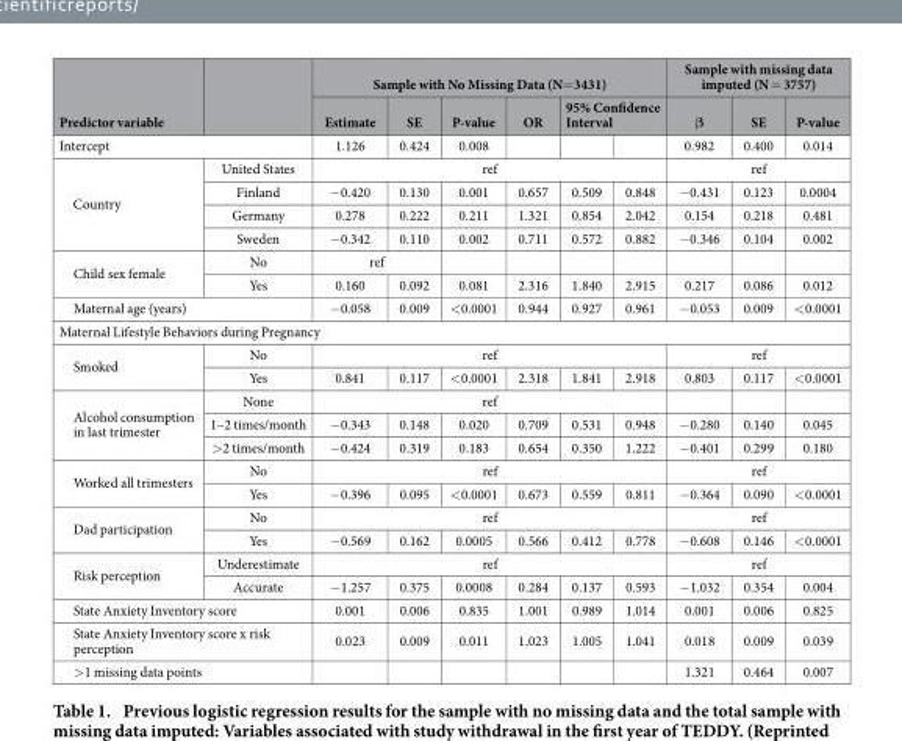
<table><thead><tr><td rowspan="2">Predictor variable</td><td rowspan="2"></td><td colspan="6">Sample with No Missing Data (N= 3431)</td><td colspan="3">Sample with missing data imputed (N = 3757)</td></tr><tr><td rowspan="2">Estimate 1.126</td><td rowspan="2">SE 0.424</td><td rowspan="2">P-value 0.008</td><td rowspan="2">OR</td><td colspan="2">95% Confidence Interval</td><td rowspan="2">β 0.982</td><td rowspan="2">SE 0.400</td><td rowspan="2">P-value 0.014</td></tr><tr><td colspan="2">Intercept</td><td></td><td></td></tr></thead><tbody><tr><td rowspan="4">Country</td><td>United States</td><td colspan="6">ref</td><td colspan="3">ref</td></tr><tr><td>Finland</td><td>− 0.420</td><td>0.130</td><td>0.001</td><td>0.657</td><td>0.509</td><td>0.848</td><td>− 0.431</td><td>0.123</td><td>0.0004</td></tr><tr><td>Germany</td><td>0.278</td><td>0.222</td><td>0.211</td><td>1.321</td><td>0.854</td><td>2.042</td><td>0.154</td><td>0.218</td><td>0.481</td></tr><tr><td>Sweden</td><td>− 0.342</td><td>0.110</td><td>0.002</td><td>0.711</td><td>0.572</td><td>0.882</td><td>− 0.346</td><td>0.104</td><td>0.002</td></tr><tr><td rowspan="2">Child sex female</td><td>No</td><td colspan="2">ref</td><td></td><td></td><td></td><td></td><td></td><td></td><td></td></tr><tr><td>Yes</td><td>0.160</td><td>0.092</td><td>0.081</td><td>2.316</td><td>1.840</td><td>2.915</td><td>0.217</td><td>0.086</td><td>0.012</td></tr><tr><td colspan="2">Maternal age (years)</td><td>− 0.058</td><td>0.009</td><td>&lt; 0.0001</td><td>0.944</td><td>0.927</td><td>0.961</td><td>− 0.053</td><td>0.009</td><td>&lt; 0.0001</td></tr><tr><td colspan="11">Maternal Lifestyle Behaviors during Pregnancy</td></tr><tr><td rowspan="2">Smoked</td><td>No</td><td colspan="6">ref</td><td colspan="3">ref</td></tr><tr><td>Yes</td><td>0.841</td><td>0.117</td><td>&lt; 0.0001</td><td>2.318</td><td>1.841</td><td>2.918</td><td>0.803</td><td>0.117</td><td>&lt; 0.0001</td></tr><tr><td rowspan="3">Alcohol consumption in last trimester</td><td>None</td><td colspan="6">ref</td><td></td><td></td><td></td></tr><tr><td>1–2 times/month</td><td>− 0.343</td><td>0.148</td><td>0.020</td><td>0.709</td><td>0.531</td><td>0.948</td><td>− 0.280</td><td>0.140</td><td>0.045</td></tr><tr><td>&gt; 2 times/month</td><td>− 0.424</td><td>0.319</td><td>0.183</td><td>0.654</td><td>0.350</td><td>1.222</td><td>− 0.401</td><td>0.299</td><td>0.180</td></tr><tr><td rowspan="2">Worked all trimesters</td><td>No</td><td colspan="6">ref</td><td colspan="3">ref</td></tr><tr><td>Yes</td><td>− 0.396</td><td>0.095</td><td>&lt; 0.0001</td><td>0.673</td><td>0.559</td><td>0.811</td><td>− 0.364</td><td>0.090</td><td>&lt; 0.0001</td></tr><tr><td rowspan="2">Dad participation</td><td>No</td><td colspan="6">ref</td><td colspan="3">ref</td></tr><tr><td>Yes</td><td>− 0.569</td><td>0.162</td><td>0.0005</td><td>0.566</td><td>0.412</td><td>0.778</td><td>− 0.608</td><td>0.146</td><td>&lt; 0.0001</td></tr><tr><td rowspan="2">Risk perception</td><td>Underestimate</td><td colspan="6">ref</td><td colspan="3">ref</td></tr><tr><td>Accurate</td><td>− 1.257</td><td>0.375</td><td>0.0008</td><td>0.284</td><td>0.137</td><td>0.593</td><td>− 1.032</td><td>0.354</td><td>0.004</td></tr><tr><td colspan="2">State Anxiety Inventory score</td><td>0.001</td><td>0.006</td><td>0.835</td><td>1.001</td><td>0.989</td><td>1.014</td><td>0.001</td><td>0.006</td><td>0.825</td></tr><tr><td colspan="2">State Anxiety Inventory score x risk perception</td><td>0.023</td><td>0.009</td><td>0.011</td><td>1.023</td><td>1.005</td><td>1.041</td><td>0.018</td><td>0.009</td><td>0.039</td></tr><tr><td colspan="2">&gt; 1 missing data points</td><td></td><td></td><td></td><td></td><td></td><td></td><td>1.321</td><td>0.464</td><td>0.007</td></tr></tbody></table>